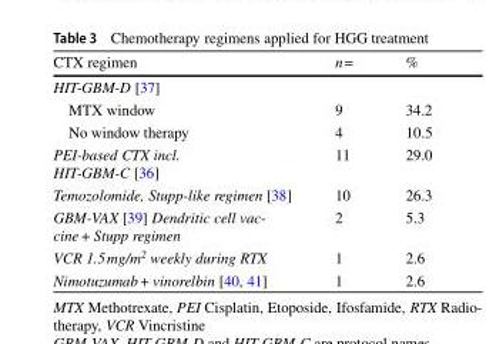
<table><thead><tr><td>CTX regimen</td><td>n=</td><td>%</td></tr></thead><tbody><tr><td colspan="3">HIT-GBM-D [37]</td></tr><tr><td>MTX window</td><td>9</td><td>34.2</td></tr><tr><td>No window therapy</td><td>4</td><td>10.5</td></tr><tr><td>PEI-based CTX incl. HIT-GBM-C [36]</td><td>11</td><td>29.0</td></tr><tr><td>Temozolomide, Stupp-like regimen [38]</td><td>10</td><td>26.3</td></tr><tr><td>GBM-VAX [39] Dendritic cell vac- cine+ Stupp regimen</td><td>2</td><td>5.3</td></tr><tr><td>VCR 1.5mg/m<sup>2</sup> weekly during RTX</td><td>1</td><td>2.6</td></tr><tr><td>Nimotuzumab+ vinorelbin [40, 41]</td><td>1</td><td>2.6</td></tr></tbody></table>